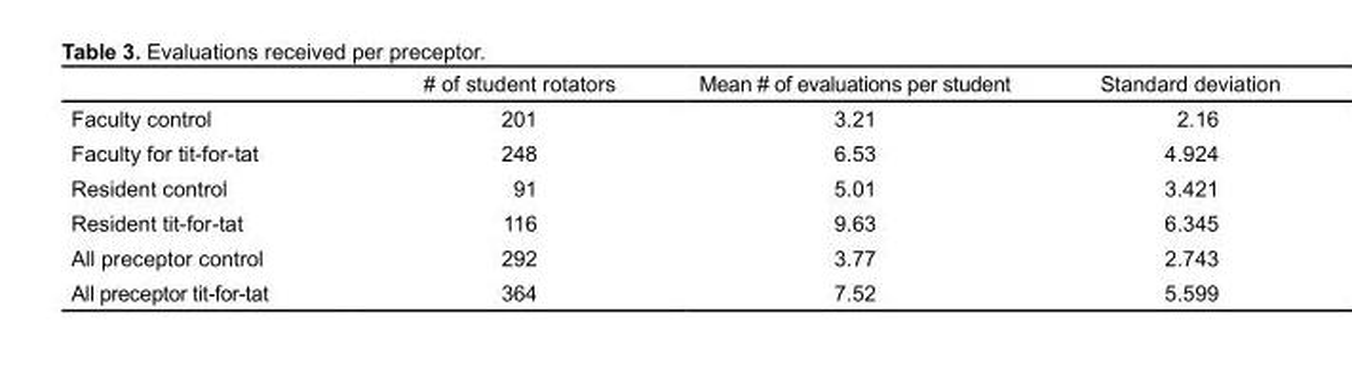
<table><thead><tr><td></td><td># of student rotators</td><td>Mean # of evaluations per student</td><td>Standard deviation</td></tr></thead><tbody><tr><td>Faculty control</td><td>201</td><td>3.21</td><td>2.16</td></tr><tr><td>Faculty for tit-for-tat</td><td>248</td><td>6.53</td><td>4.924</td></tr><tr><td>Resident control</td><td>91</td><td>5.01</td><td>3.421</td></tr><tr><td>Resident tit-for-tat</td><td>116</td><td>9.63</td><td>6.345</td></tr><tr><td>All preceptor control</td><td>292</td><td>3.77</td><td>2.743</td></tr><tr><td>All preceptor tit-for-tat</td><td>364</td><td>7.52</td><td>5.599</td></tr></tbody></table>